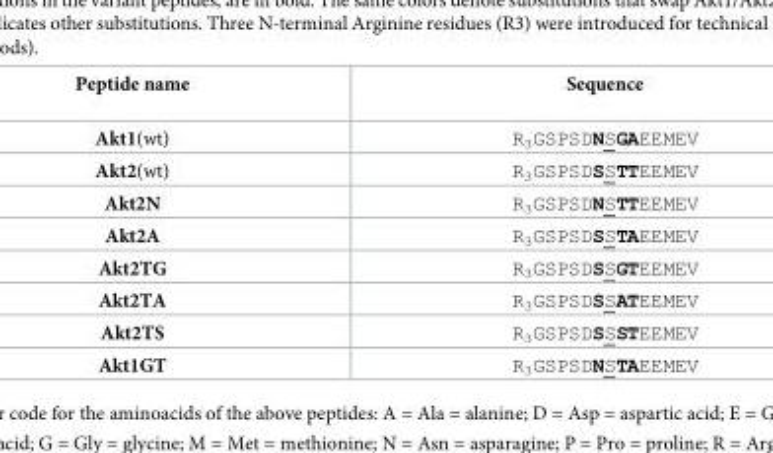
<table><thead><tr><td>Peptide name</td><td>Sequence</td></tr></thead><tbody><tr><td>Akt1(wt)</td><td>R<sub>3</sub>GSPSDNSGAEEMEV</td></tr><tr><td>Akt2(wt)</td><td>R<sub>3</sub>GSPSDSSTTEEMEV</td></tr><tr><td>Akt2N</td><td>R<sub>3</sub>GSPSDNSTTEEMEV</td></tr><tr><td>Akt2A</td><td>R<sub>3</sub>GSPSDSSTAEEMEV</td></tr><tr><td>Akt2TG</td><td>R<sub>3</sub>GSPSDSSGTEEMEV</td></tr><tr><td>Akt2TA</td><td>R<sub>3</sub>GSPSDSSATEEMEV</td></tr><tr><td>Akt2TS</td><td>R<sub>3</sub>GSPSDSSSTEEMEV</td></tr><tr><td>Akt1GT</td><td>R<sub>3</sub>GSPSDNSTAEEMEV</td></tr></tbody></table>